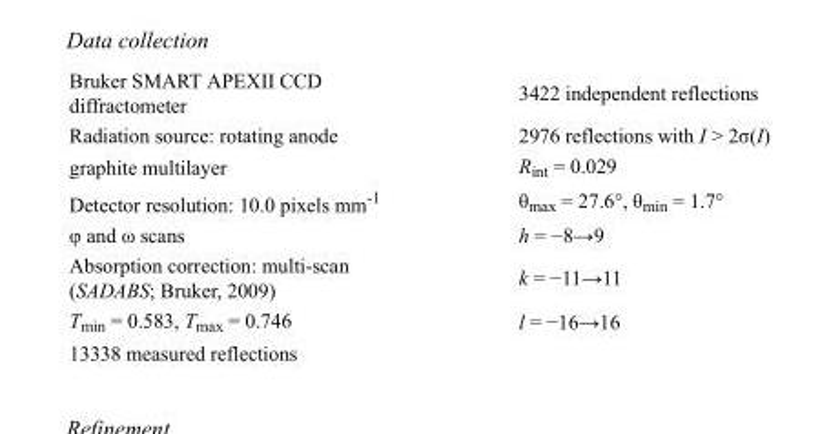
<table><tbody><tr><td>Bruker SMART APEXII CCD diffractometer</td><td>3422 independent reflections</td></tr><tr><td>Radiation source: rotating anode</td><td>2976 reflections with I &gt; 2σ(I)</td></tr><tr><td>graphite multilayer</td><td>R<sub>int</sub> = 0.029</td></tr><tr><td>Detector resolution: 10.0 pixels mm<sup>-1</sup></td><td>θ<sub>max</sub> = 27.6°, θ<sub>min</sub> = 1.7°</td></tr><tr><td>φ and ω scans</td><td>h = −8→9</td></tr><tr><td>Absorption correction: multi-scan (SADABS; Bruker, 2009)</td><td>k = −11→11</td></tr><tr><td>T<sub>min</sub> = 0.583, T<sub>max</sub> = 0.746</td><td>l = −16→16</td></tr><tr><td>13338 measured reflections</td><td></td></tr></tbody></table>